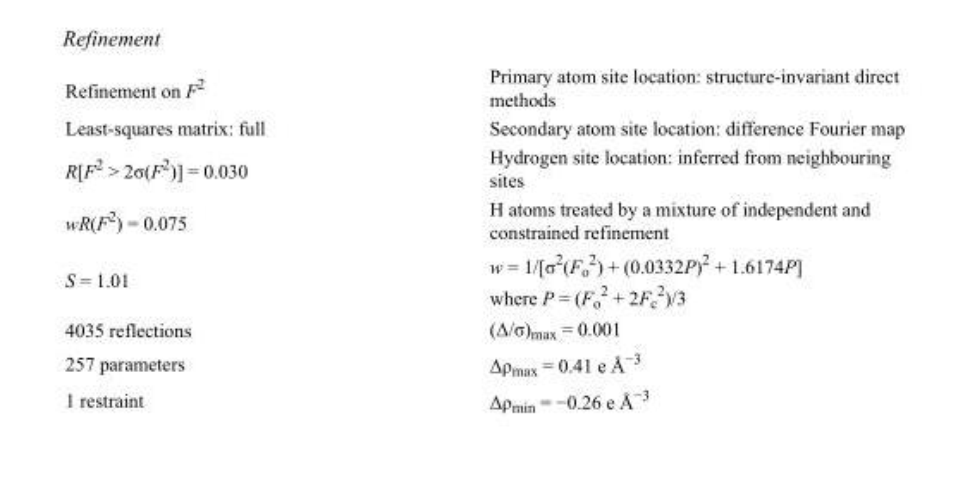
<table><tbody><tr><td>Refinement on F<sup>2</sup></td><td>Primary atom site location: structure-invariant direct methods</td></tr><tr><td>Least-squares matrix: full</td><td>Secondary atom site location: difference Fourier map</td></tr><tr><td>R[F<sup>2</sup> &gt; 2σ(F<sup>2</sup>)] = 0.030</td><td>Hydrogen site location: inferred from neighbouring sites</td></tr><tr><td>wR(F<sup>2</sup>) = 0.075</td><td>H atoms treated by a mixture of independent and constrained refinement</td></tr><tr><td>S = 1.01</td><td>w = 1/[σ<sup>2</sup>(F<sub>o</sub> <sup>2</sup>) + (0.0332P)<sup>2</sup> + 1.6174P] where P = (F<sub>o</sub> <sup>2</sup> + 2F<sub>c</sub> <sup>2</sup>)/3</td></tr><tr><td>4035 reflections</td><td>(Δ/σ)<sub>max</sub> = 0.001</td></tr><tr><td>257 parameters</td><td>Δρ<sub>max</sub> = 0.41 e Å<sup>−3</sup></td></tr><tr><td>1 restraint</td><td>Δρ<sub>min</sub> = −0.26 e Å<sup>−3</sup></td></tr></tbody></table>